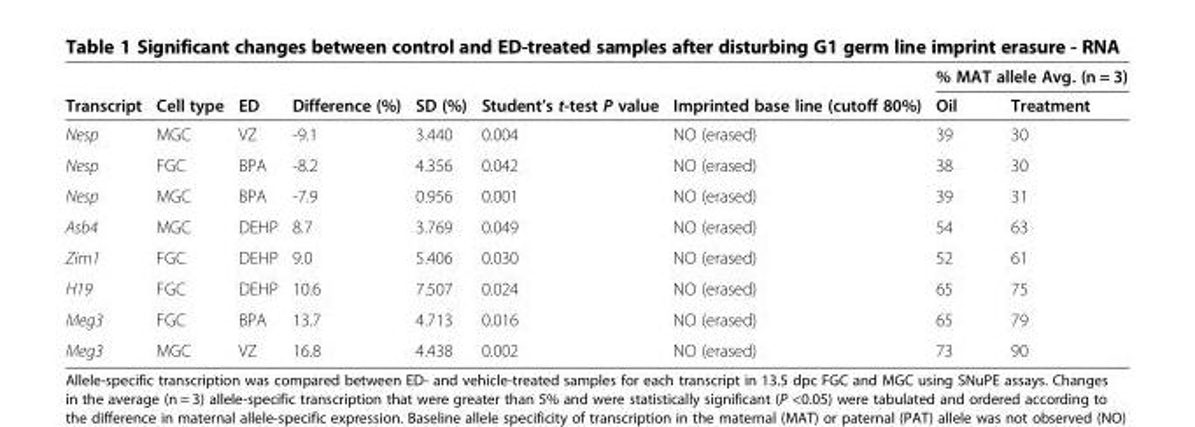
<table><thead><tr><td rowspan="2">Transcript</td><td rowspan="2">Cell type</td><td rowspan="2">ED</td><td rowspan="2">Difference (%)</td><td rowspan="2">SD (%)</td><td rowspan="2">Student’s t-test P value</td><td rowspan="2">Imprinted base line (cutoff 80%)</td><td colspan="2">% MAT allele Avg. (n = 3)</td></tr><tr><td>Oil</td><td>Treatment</td></tr></thead><tbody><tr><td>Nesp</td><td>MGC</td><td>VZ</td><td>-9.1</td><td>3.440</td><td>0.004</td><td>NO (erased)</td><td>39</td><td>30</td></tr><tr><td>Nesp</td><td>FGC</td><td>BPA</td><td>-8.2</td><td>4.356</td><td>0.042</td><td>NO (erased)</td><td>38</td><td>30</td></tr><tr><td>Nesp</td><td>MGC</td><td>BPA</td><td>-7.9</td><td>0.956</td><td>0.001</td><td>NO (erased)</td><td>39</td><td>31</td></tr><tr><td>Asb4</td><td>MGC</td><td>DEHP</td><td>8.7</td><td>3.769</td><td>0.049</td><td>NO (erased)</td><td>54</td><td>63</td></tr><tr><td>Zim1</td><td>FGC</td><td>DEHP</td><td>9.0</td><td>5.406</td><td>0.030</td><td>NO (erased)</td><td>52</td><td>61</td></tr><tr><td>H19</td><td>FGC</td><td>DEHP</td><td>10.6</td><td>7.507</td><td>0.024</td><td>NO (erased)</td><td>65</td><td>75</td></tr><tr><td>Meg3</td><td>FGC</td><td>BPA</td><td>13.7</td><td>4.713</td><td>0.016</td><td>NO (erased)</td><td>65</td><td>79</td></tr><tr><td>Meg3</td><td>MGC</td><td>VZ</td><td>16.8</td><td>4.438</td><td>0.002</td><td>NO (erased)</td><td>73</td><td>90</td></tr></tbody></table>